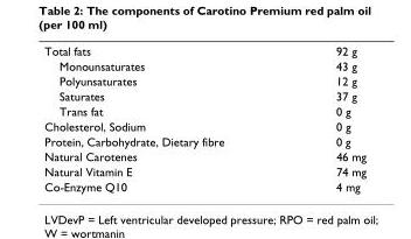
<table><tbody><tr><td>Total fats</td><td>92 g</td></tr><tr><td>Monounsaturates</td><td>43 g</td></tr><tr><td>Polyunsaturates</td><td>12 g</td></tr><tr><td>Saturates</td><td>37 g</td></tr><tr><td>Trans fat</td><td>0 g</td></tr><tr><td>Cholesterol, Sodium</td><td>0 g</td></tr><tr><td>Protein, Carbohydrate, Dietary fibre</td><td>0 g</td></tr><tr><td>Natural Carotenes</td><td>46 mg</td></tr><tr><td>Natural Vitamin E</td><td>74 mg</td></tr><tr><td>Co-Enzyme Q10</td><td>4 mg</td></tr></tbody></table>